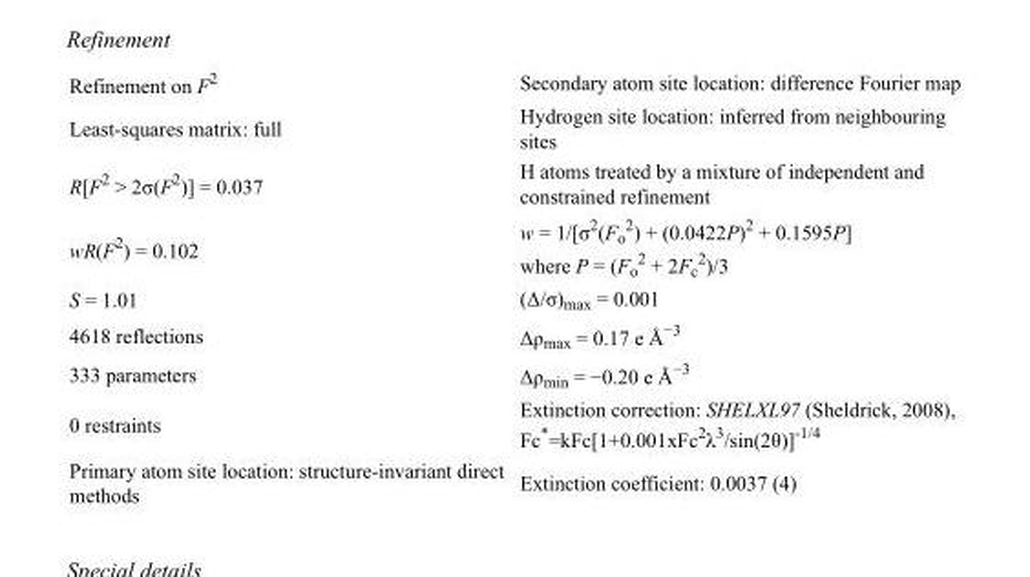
<table><tbody><tr><td>Refinement on F<sup>2</sup></td><td>Secondary atom site location: difference Fourier map</td></tr><tr><td>Least-squares matrix: full</td><td>Hydrogen site location: inferred from neighbouring sites</td></tr><tr><td>R[F<sup>2</sup> &gt; 2σ(F<sup>2</sup>)] = 0.037</td><td>H atoms treated by a mixture of independent and constrained refinement</td></tr><tr><td>wR(F<sup>2</sup>) = 0.102</td><td>w = 1/[σ<sup>2</sup>(F<sub>o</sub> <sup>2</sup>) + (0.0422P)<sup>2</sup> + 0.1595P] where P = (F<sub>o</sub> <sup>2</sup> + 2F<sub>c</sub> <sup>2</sup>)/3</td></tr><tr><td>S = 1.01</td><td>(Δ/σ)<sub>max</sub> = 0.001</td></tr><tr><td>4618 reflections</td><td>Δρ<sub>max</sub> = 0.17 e Å<sup>−3</sup></td></tr><tr><td>333 parameters</td><td>Δρ<sub>min</sub> = −0.20 e Å<sup>−3</sup></td></tr><tr><td>0 restraints</td><td>Extinction correction: SHELXL97 (Sheldrick, 2008), Fc*=kFc[1+0.001xFc<sup>2</sup>λ<sup>3</sup>/sin(2θ)]<sup>-1/4</sup></td></tr><tr><td>Primary atom site location: structure-invariant direct methods</td><td>Extinction coefficient: 0.0037 (4)</td></tr></tbody></table>